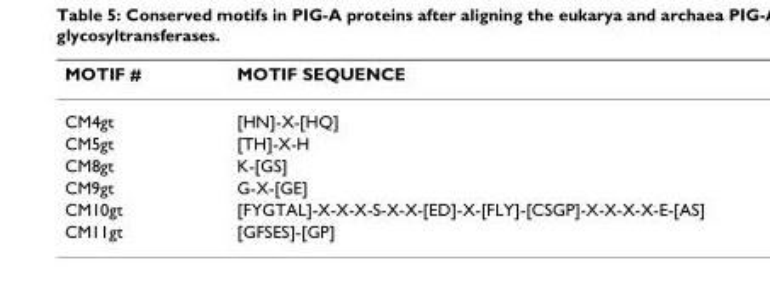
<table><thead><tr><td>MOTIF #</td><td>MOTIF SEQUENCE</td></tr></thead><tbody><tr><td>CM4gt</td><td>[HN]-X-[HQ]</td></tr><tr><td>CM5gt</td><td>[TH]-X-H</td></tr><tr><td>CM8gt</td><td>K-[GS]</td></tr><tr><td>CM9gt</td><td>G-X-[GE]</td></tr><tr><td>CM10gt</td><td>[FYGTAL]-X-X-X-S-X-X-[ED]-X-[FLY]-[CSGP]-X-X-X-X-E-[AS]</td></tr><tr><td>CM11gt</td><td>[GFSES]-[GP]</td></tr></tbody></table>